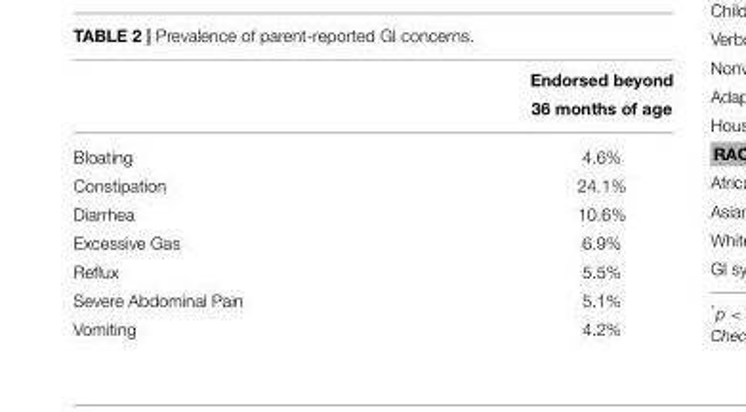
<table><thead><tr><td></td><td>Endorsed beyond 36 months of age</td></tr></thead><tbody><tr><td>Bloating</td><td>4.6%</td></tr><tr><td>Constipation</td><td>24.1%</td></tr><tr><td>Diarrhea</td><td>10.6%</td></tr><tr><td>Excessive Gas</td><td>6.9%</td></tr><tr><td>Reflux</td><td>5.5%</td></tr><tr><td>Severe Abdominal Pain</td><td>5.1%</td></tr><tr><td>Vomiting</td><td>4.2%</td></tr></tbody></table>